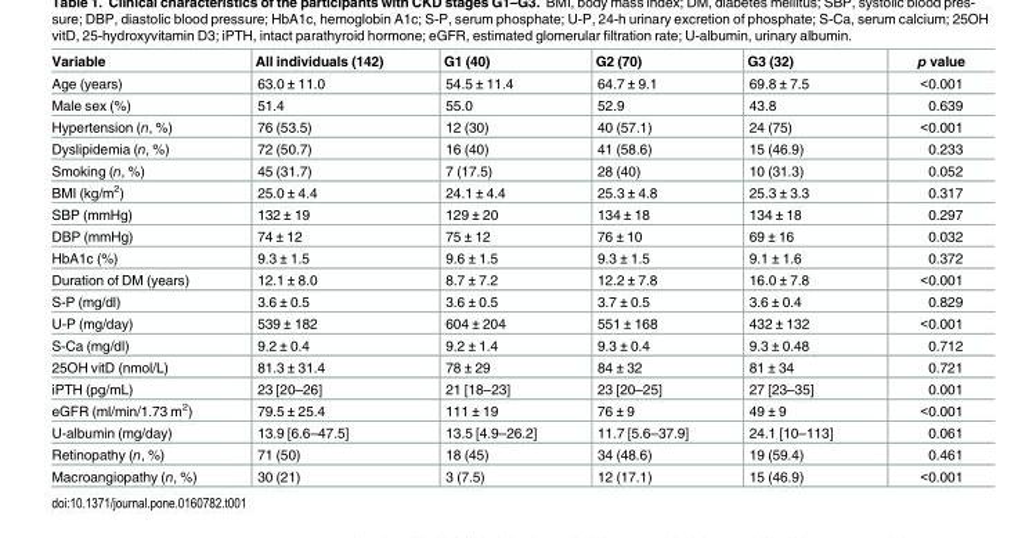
<table><thead><tr><td>Variable</td><td>All individuals (142)</td><td>G1 (40)</td><td>G2 (70)</td><td>G3 (32)</td><td>p value</td></tr></thead><tbody><tr><td>Age (years)</td><td>63.0 ± 11.0</td><td>54.5 ± 11.4</td><td>64.7 ± 9.1</td><td>69.8 ± 7.5</td><td>&lt;0.001</td></tr><tr><td>Male sex (%)</td><td>51.4</td><td>55.0</td><td>52.9</td><td>43.8</td><td>0.639</td></tr><tr><td>Hypertension (n, %)</td><td>76 (53.5)</td><td>12 (30)</td><td>40 (57.1)</td><td>24 (75)</td><td>&lt;0.001</td></tr><tr><td>Dyslipidemia (n, %)</td><td>72 (50.7)</td><td>16 (40)</td><td>41 (58.6)</td><td>15 (46.9)</td><td>0.233</td></tr><tr><td>Smoking (n, %)</td><td>45 (31.7)</td><td>7 (17.5)</td><td>28 (40)</td><td>10 (31.3)</td><td>0.052</td></tr><tr><td>BMI (kg/m<sup>2</sup>)</td><td>25.0 ± 4.4</td><td>24.1 ± 4.4</td><td>25.3 ± 4.8</td><td>25.3 ± 3.3</td><td>0.317</td></tr><tr><td>SBP (mmHg)</td><td>132 ± 19</td><td>129 ± 20</td><td>134 ± 18</td><td>134 ± 18</td><td>0.297</td></tr><tr><td>DBP (mmHg)</td><td>74 ± 12</td><td>75 ± 12</td><td>76 ± 10</td><td>69 ± 16</td><td>0.032</td></tr><tr><td>HbA1c (%)</td><td>9.3 ± 1.5</td><td>9.6 ± 1.5</td><td>9.3 ± 1.5</td><td>9.1 ± 1.6</td><td>0.372</td></tr><tr><td>Duration of DM (years)</td><td>12.1 ± 8.0</td><td>8.7 ± 7.2</td><td>12.2 ± 7.8</td><td>16.0 ± 7.8</td><td>&lt;0.001</td></tr><tr><td>S-P (mg/dl)</td><td>3.6 ± 0.5</td><td>3.6 ± 0.5</td><td>3.7 ± 0.5</td><td>3.6 ± 0.4</td><td>0.829</td></tr><tr><td>U-P (mg/day)</td><td>539 ± 182</td><td>604 ± 204</td><td>551 ± 168</td><td>432 ± 132</td><td>&lt;0.001</td></tr><tr><td>S-Ca (mg/dl)</td><td>9.2 ± 0.4</td><td>9.2 ± 1.4</td><td>9.3 ± 0.4</td><td>9.3 ± 0.48</td><td>0.712</td></tr><tr><td>25OH vitD (nmol/L)</td><td>81.3 ± 31.4</td><td>78 ± 29</td><td>84 ± 32</td><td>81 ± 34</td><td>0.721</td></tr><tr><td>iPTH (pg/mL)</td><td>23 [20–26]</td><td>21 [18–23]</td><td>23 [20–25]</td><td>27 [23–35]</td><td>0.001</td></tr><tr><td>eGFR (ml/min/1.73 m<sup>2</sup>)</td><td>79.5 ± 25.4</td><td>111 ± 19</td><td>76 ± 9</td><td>49 ± 9</td><td>&lt;0.001</td></tr><tr><td>U-albumin (mg/day)</td><td>13.9 [6.6–47.5]</td><td>13.5 [4.9–26.2]</td><td>11.7 [5.6–37.9]</td><td>24.1 [10–113]</td><td>0.061</td></tr><tr><td>Retinopathy (n, %)</td><td>71 (50)</td><td>18 (45)</td><td>34 (48.6)</td><td>19 (59.4)</td><td>0.461</td></tr><tr><td>Macroangiopathy (n, %)</td><td>30 (21)</td><td>3 (7.5)</td><td>12 (17.1)</td><td>15 (46.9)</td><td>&lt;0.001</td></tr></tbody></table>